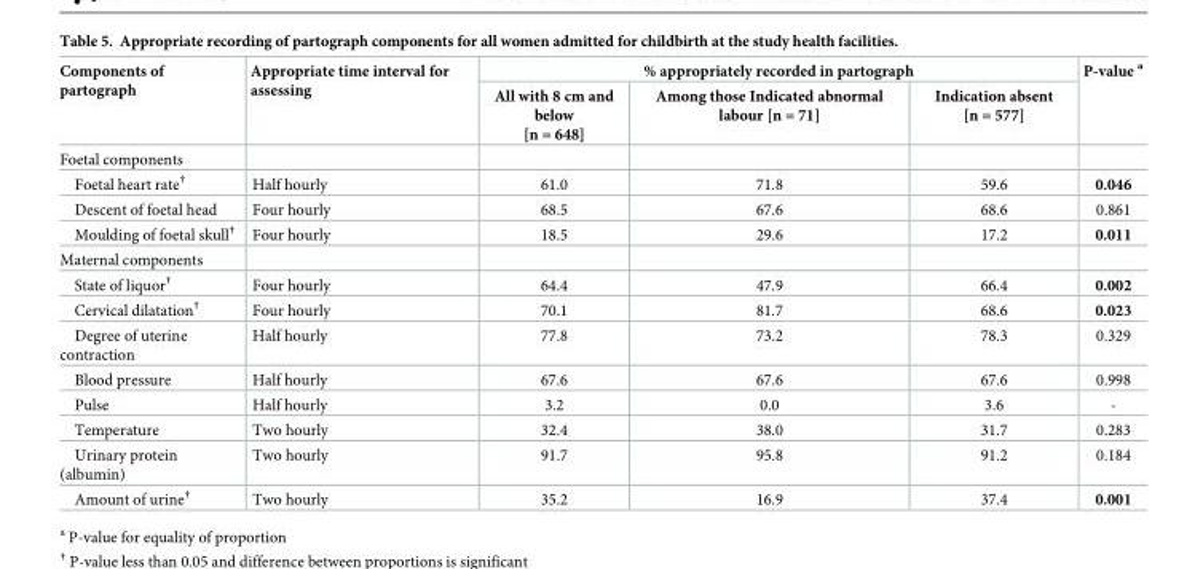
<table><thead><tr><td rowspan="2">Components of partograph</td><td rowspan="2">Appropriate time interval for assessing</td><td colspan="3">% appropriately recorded in partograph</td><td rowspan="2">P-value <sup>a</sup></td></tr><tr><td>All with 8 cm and below [n = 648]</td><td>Among those Indicated abnormal labour [n = 71]</td><td>Indication absent [n = 577]</td></tr></thead><tbody><tr><td colspan="6">Foetal components</td></tr><tr><td>Foetal heart rate<sup>†</sup></td><td>Half hourly</td><td>61.0</td><td>71.8</td><td>59.6</td><td>0.046</td></tr><tr><td>Descent of foetal head</td><td>Four hourly</td><td>68.5</td><td>67.6</td><td>68.6</td><td>0.861</td></tr><tr><td>Moulding of foetal skull<sup>†</sup></td><td>Four hourly</td><td>18.5</td><td>29.6</td><td>17.2</td><td>0.011</td></tr><tr><td colspan="6">Maternal components</td></tr><tr><td>State of liquor<sup>†</sup></td><td>Four hourly</td><td>64.4</td><td>47.9</td><td>66.4</td><td>0.002</td></tr><tr><td>Cervical dilatation<sup>†</sup></td><td>Four hourly</td><td>70.1</td><td>81.7</td><td>68.6</td><td>0.023</td></tr><tr><td>Degree of uterine contraction</td><td>Half hourly</td><td>77.8</td><td>73.2</td><td>78.3</td><td>0.329</td></tr><tr><td>Blood pressure</td><td>Half hourly</td><td>67.6</td><td>67.6</td><td>67.6</td><td>0.998</td></tr><tr><td>Pulse</td><td>Half hourly</td><td>3.2</td><td>0.0</td><td>3.6</td><td>-</td></tr><tr><td>Temperature</td><td>Two hourly</td><td>32.4</td><td>38.0</td><td>31.7</td><td>0.283</td></tr><tr><td>Urinary protein (albumin)</td><td>Two hourly</td><td>91.7</td><td>95.8</td><td>91.2</td><td>0.184</td></tr><tr><td>Amount of urine<sup>†</sup></td><td>Two hourly</td><td>35.2</td><td>16.9</td><td>37.4</td><td>0.001</td></tr></tbody></table>